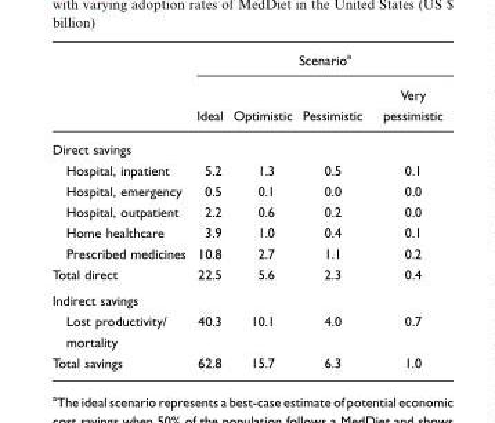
<table><thead><tr><td rowspan="2"></td><td colspan="4">Scenario<sup>a</sup></td></tr><tr><td>Ideal</td><td>Optimistic</td><td>Pessimistic</td><td>Very pessimistic</td></tr></thead><tbody><tr><td colspan="5">Direct savings</td></tr><tr><td>Hospital, inpatient</td><td>5.2</td><td>1.3</td><td>0.5</td><td>0.1</td></tr><tr><td>Hospital, emergency</td><td>0.5</td><td>0.1</td><td>0.0</td><td>0.0</td></tr><tr><td>Hospital, outpatient</td><td>2.2</td><td>0.6</td><td>0.2</td><td>0.0</td></tr><tr><td>Home healthcare</td><td>3.9</td><td>1.0</td><td>0.4</td><td>0.1</td></tr><tr><td>Prescribed medicines</td><td>10.8</td><td>2.7</td><td>1.1</td><td>0.2</td></tr><tr><td>Total direct</td><td>22.5</td><td>5.6</td><td>2.3</td><td>0.4</td></tr><tr><td colspan="5">Indirect savings</td></tr><tr><td>Lost productivity/ mortality</td><td>40.3</td><td>10.1</td><td>4.0</td><td>0.7</td></tr><tr><td>Total savings</td><td>62.8</td><td>15.7</td><td>6.3</td><td>1.0</td></tr></tbody></table>